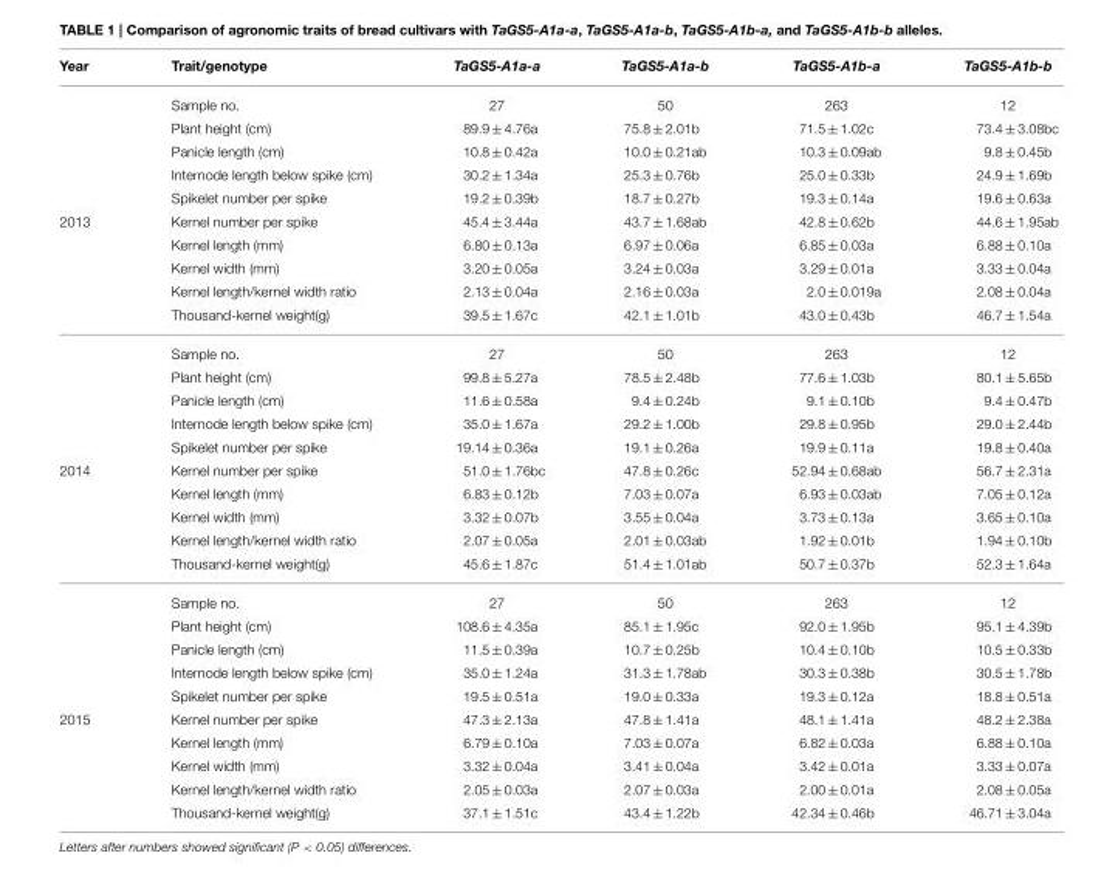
<table><thead><tr><td>Year</td><td>Trait/genotype</td><td>TaGS5-A1a-a</td><td>TaGS5-A1a-b</td><td>TaGS5-A1b-a</td><td>TaGS5-A1b-b</td></tr></thead><tbody><tr><td></td><td>Sample no.</td><td>27</td><td>50</td><td>263</td><td>12</td></tr><tr><td></td><td>Plant height (cm)</td><td>89.9 ± 4.76a</td><td>75.8 ± 2.01b</td><td>71.5 ± 1.02c</td><td>73.4 ± 3.08bc</td></tr><tr><td></td><td>Panicle length (cm)</td><td>10.8 ± 0.42a</td><td>10.0 ± 0.21ab</td><td>10.3 ± 0.09ab</td><td>9.8 ± 0.45b</td></tr><tr><td></td><td>Internode length below spike (cm)</td><td>30.2 ± 1.34a</td><td>25.3 ± 0.76b</td><td>25.0 ± 0.33b</td><td>24.9 ± 1.69b</td></tr><tr><td></td><td>Spikelet number per spike</td><td>19.2 ± 0.39b</td><td>18.7 ± 0.27b</td><td>19.3 ± 0.14a</td><td>19.6 ± 0.63a</td></tr><tr><td rowspan="10">2013</td><td>Kernel number per spike</td><td>45.4 ± 3.44a</td><td>43.7 ± 1.68ab</td><td>42.8 ± 0.62b</td><td>44.6 ± 1.95ab</td></tr><tr><td>Kernel length (mm)</td><td>6.80 ± 0.13a</td><td>6.97 ± 0.06a</td><td>6.85 ± 0.03a</td><td>6.88 ± 0.10a</td></tr><tr><td>Kernel width (mm)</td><td>3.20 ± 0.05a</td><td>3.24 ± 0.03a</td><td>3.29 ± 0.01a</td><td>3.33 ± 0.04a</td></tr><tr><td>Kernel length/kernel width ratio</td><td>2.13 ± 0.04a</td><td>2.16 ± 0.03a</td><td>2.0 ± 0.019a</td><td>2.08 ± 0.04a</td></tr><tr><td>Thousand-kernel weight(g)</td><td>39.5 ± 1.67c</td><td>42.1 ± 1.01b</td><td>43.0 ± 0.43b</td><td>46.7 ± 1.54a</td></tr><tr><td>Sample no.</td><td>27</td><td>50</td><td>263</td><td>12</td></tr><tr><td>Plant height (cm)</td><td>99.8 ± 5.27a</td><td>78.5 ± 2.48b</td><td>77.6 ± 1.03b</td><td>80.1 ± 5.65b</td></tr><tr><td>Panicle length (cm)</td><td>11.6 ± 0.58a</td><td>9.4 ± 0.24b</td><td>9.1 ± 0.10b</td><td>9.4 ± 0.47b</td></tr><tr><td>Internode length below spike (cm)</td><td>35.0 ± 1.67a</td><td>29.2 ± 1.00b</td><td>29.8 ± 0.95b</td><td>29.0 ± 2.44b</td></tr><tr><td>Spikelet number per spike</td><td>19.14 ± 0.36a</td><td>19.1 ± 0.26a</td><td>19.9 ± 0.11a</td><td>19.8 ± 0.40a</td></tr><tr><td rowspan="10">2014</td><td>Kernel number per spike</td><td>51.0 ± 1.76bc</td><td>47.8 ± 0.26c</td><td>52.94 ± 0.68ab</td><td>56.7 ± 2.31a</td></tr><tr><td>Kernel length (mm)</td><td>6.83 ± 0.12b</td><td>7.03 ± 0.07a</td><td>6.93 ± 0.03ab</td><td>7.05 ± 0.12a</td></tr><tr><td>Kernel width (mm)</td><td>3.32 ± 0.07b</td><td>3.55 ± 0.04a</td><td>3.73 ± 0.13a</td><td>3.65 ± 0.10a</td></tr><tr><td>Kernel length/kernel width ratio</td><td>2.07 ± 0.05a</td><td>2.01 ± 0.03ab</td><td>1.92 ± 0.01b</td><td>1.94 ± 0.10b</td></tr><tr><td>Thousand-kernel weight(g)</td><td>45.6 ± 1.87c</td><td>51.4 ± 1.01ab</td><td>50.7 ± 0.37b</td><td>52.3 ± 1.64a</td></tr><tr><td>Sample no.</td><td>27</td><td>50</td><td>263</td><td>12</td></tr><tr><td>Plant height (cm)</td><td>108.6 ± 4.35a</td><td>85.1 ± 1.95c</td><td>92.0 ± 1.95b</td><td>95.1 ± 4.39b</td></tr><tr><td>Panicle length (cm)</td><td>11.5 ± 0.39a</td><td>10.7 ± 0.25b</td><td>10.4 ± 0.10b</td><td>10.5 ± 0.33b</td></tr><tr><td>Internode length below spike (cm)</td><td>35.0 ± 1.24a</td><td>31.3 ± 1.78ab</td><td>30.3 ± 0.38b</td><td>30.5 ± 1.78b</td></tr><tr><td>Spikelet number per spike</td><td>19.5 ± 0.51a</td><td>19.0 ± 0.33a</td><td>19.3 ± 0.12a</td><td>18.8 ± 0.51a</td></tr><tr><td rowspan="5">2015</td><td>Kernel number per spike</td><td>47.3 ± 2.13a</td><td>47.8 ± 1.41a</td><td>48.1 ± 1.41a</td><td>48.2 ± 2.38a</td></tr><tr><td>Kernel length (mm)</td><td>6.79 ± 0.10a</td><td>7.03 ± 0.07a</td><td>6.82 ± 0.03a</td><td>6.88 ± 0.10a</td></tr><tr><td>Kernel width (mm)</td><td>3.32 ± 0.04a</td><td>3.41 ± 0.04a</td><td>3.42 ± 0.01a</td><td>3.33 ± 0.07a</td></tr><tr><td>Kernel length/kernel width ratio</td><td>2.05 ± 0.03a</td><td>2.07 ± 0.03a</td><td>2.00 ± 0.01a</td><td>2.08 ± 0.05a</td></tr><tr><td>Thousand-kernel weight(g)</td><td>37.1 ± 1.51c</td><td>43.4 ± 1.22b</td><td>42.34 ± 0.46b</td><td>46.71 ± 3.04a</td></tr></tbody></table>